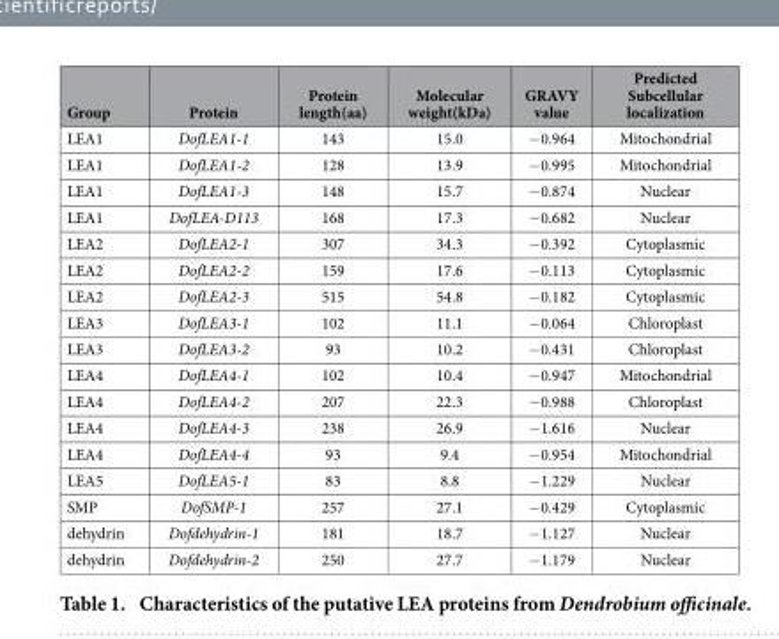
<table><thead><tr><td>Group</td><td>Protein</td><td>Protein length(aa)</td><td>Molecular weight(kDa)</td><td>GRAVY value</td><td>Predicted Subcellular localization</td></tr></thead><tbody><tr><td>LEA1</td><td>DofLEA1-1</td><td>143</td><td>15.0</td><td>− 0.964</td><td>Mitochondrial</td></tr><tr><td>LEA1</td><td>DofLEA1-2</td><td>128</td><td>13.9</td><td>− 0.995</td><td>Mitochondrial</td></tr><tr><td>LEA1</td><td>DofLEA1-3</td><td>148</td><td>15.7</td><td>− 0.874</td><td>Nuclear</td></tr><tr><td>LEA1</td><td>DofLEA-D113</td><td>168</td><td>17.3</td><td>− 0.682</td><td>Nuclear</td></tr><tr><td>LEA2</td><td>DofLEA2-1</td><td>307</td><td>34.3</td><td>− 0.392</td><td>Cytoplasmic</td></tr><tr><td>LEA2</td><td>DofLEA2-2</td><td>159</td><td>17.6</td><td>− 0.113</td><td>Cytoplasmic</td></tr><tr><td>LEA2</td><td>DofLEA2-3</td><td>515</td><td>54.8</td><td>− 0.182</td><td>Cytoplasmic</td></tr><tr><td>LEA3</td><td>DofLEA3-1</td><td>102</td><td>11.1</td><td>− 0.064</td><td>Chloroplast</td></tr><tr><td>LEA3</td><td>DofLEA3-2</td><td>93</td><td>10.2</td><td>− 0.431</td><td>Chloroplast</td></tr><tr><td>LEA4</td><td>DofLEA4-1</td><td>102</td><td>10.4</td><td>− 0.947</td><td>Mitochondrial</td></tr><tr><td>LEA4</td><td>DofLEA4-2</td><td>207</td><td>22.3</td><td>− 0.988</td><td>Chloroplast</td></tr><tr><td>LEA4</td><td>DofLEA4-3</td><td>238</td><td>26.9</td><td>− 1.616</td><td>Nuclear</td></tr><tr><td>LEA4</td><td>DofLEA4-4</td><td>93</td><td>9.4</td><td>− 0.954</td><td>Mitochondrial</td></tr><tr><td>LEA5</td><td>DofLEA5-1</td><td>83</td><td>8.8</td><td>− 1.229</td><td>Nuclear</td></tr><tr><td>SMP</td><td>DofSMP-1</td><td>257</td><td>27.1</td><td>− 0.429</td><td>Cytoplasmic</td></tr><tr><td>dehydrin</td><td>Dofdehydrin-1</td><td>181</td><td>18.7</td><td>− 1.127</td><td>Nuclear</td></tr><tr><td>dehydrin</td><td>Dofdehydrin-2</td><td>250</td><td>27.7</td><td>− 1.179</td><td>Nuclear</td></tr></tbody></table>